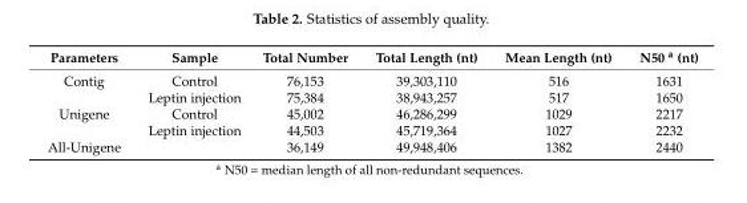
<table><thead><tr><td>Parameters</td><td>Sample</td><td>Total Number</td><td>Total Length (nt)</td><td>Mean Length (nt)</td><td>N50 <sup>a</sup> (nt)</td></tr></thead><tbody><tr><td rowspan="2">Contig</td><td>Control</td><td>76,153</td><td>39,303,110</td><td>516</td><td>1631</td></tr><tr><td>Leptin injection</td><td>75,384</td><td>38,943,257</td><td>517</td><td>1650</td></tr><tr><td rowspan="2">Unigene</td><td>Control</td><td>45,002</td><td>46,286,299</td><td>1029</td><td>2217</td></tr><tr><td>Leptin injection</td><td>44,503</td><td>45,719,364</td><td>1027</td><td>2232</td></tr><tr><td>All-Unigene</td><td></td><td>36,149</td><td>49,948,406</td><td>1382</td><td>2440</td></tr></tbody></table>